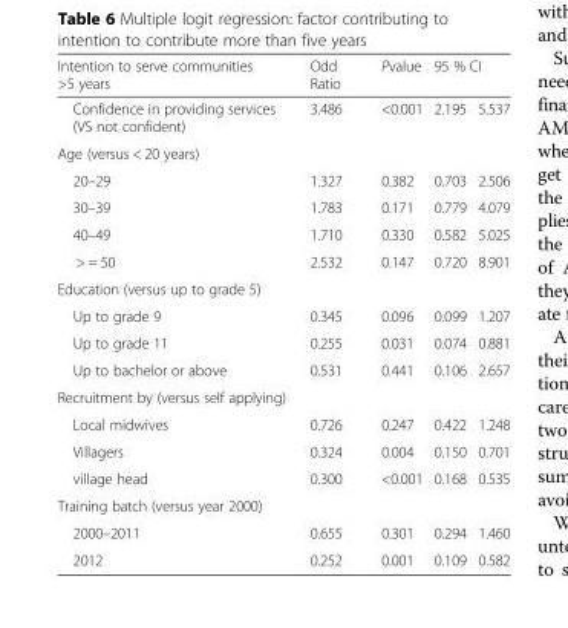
<table><thead><tr><td rowspan="2">Intention to serve communities &gt;5 years Confidence in providing services (VS not confident)</td><td rowspan="2">Odd Ratio 3.486</td><td rowspan="2">Pvalue &lt;0.001</td><td colspan="2">95 % CI</td></tr><tr><td>2.195</td><td>5.537</td></tr></thead><tbody><tr><td colspan="5">Age (versus &lt; 20 years)</td></tr><tr><td>20–29</td><td>1.327</td><td>0.382</td><td>0.703</td><td>2.506</td></tr><tr><td>30–39</td><td>1.783</td><td>0.171</td><td>0.779</td><td>4.079</td></tr><tr><td>40–49</td><td>1.710</td><td>0.330</td><td>0.582</td><td>5.025</td></tr><tr><td>&gt; = 50</td><td>2.532</td><td>0.147</td><td>0.720</td><td>8.901</td></tr><tr><td colspan="5">Education (versus up to grade 5)</td></tr><tr><td>Up to grade 9</td><td>0.345</td><td>0.096</td><td>0.099</td><td>1.207</td></tr><tr><td>Up to grade 11</td><td>0.255</td><td>0.031</td><td>0.074</td><td>0.881</td></tr><tr><td>Up to bachelor or above</td><td>0.531</td><td>0.441</td><td>0.106</td><td>2.657</td></tr><tr><td colspan="5">Recruitment by (versus self applying)</td></tr><tr><td>Local midwives</td><td>0.726</td><td>0.247</td><td>0.422</td><td>1.248</td></tr><tr><td>Villagers</td><td>0.324</td><td>0.004</td><td>0.150</td><td>0.701</td></tr><tr><td>village head</td><td>0.300</td><td>&lt;0.001</td><td>0.168</td><td>0.535</td></tr><tr><td colspan="5">Training batch (versus year 2000)</td></tr><tr><td>2000–2011</td><td>0.655</td><td>0.301</td><td>0.294</td><td>1.460</td></tr><tr><td>2012</td><td>0.252</td><td>0.001</td><td>0.109</td><td>0.582</td></tr></tbody></table>